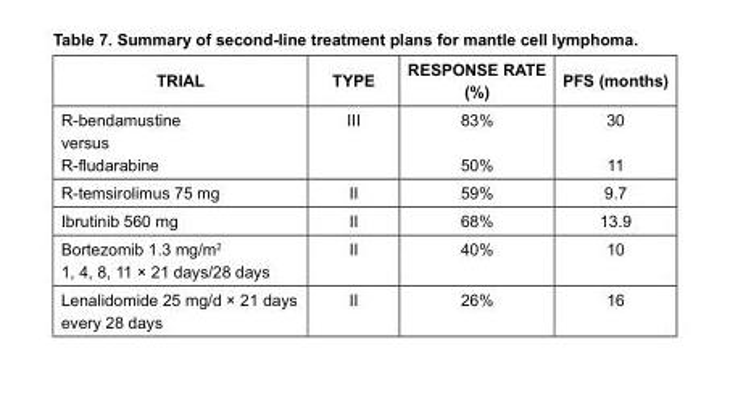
<table><thead><tr><td>TRIAL</td><td>TYPE</td><td>RESPONSE RATE (%)</td><td>PFS (months)</td></tr></thead><tbody><tr><td>R-bendamustine versus R-fludarabine</td><td>III</td><td>83% 50%</td><td>30 11</td></tr><tr><td>R-temsirolimus 75 mg</td><td>II</td><td>59%</td><td>9.7</td></tr><tr><td>Ibrutinib 560 mg</td><td>II</td><td>68%</td><td>13.9</td></tr><tr><td>Bortezomib 1.3 mg/m<sup>2</sup> 1, 4, 8, 11 × 21 days/28 days</td><td>II</td><td>40%</td><td>10</td></tr><tr><td>Lenalidomide 25 mg/d × 21 days every 28 days</td><td>II</td><td>26%</td><td>16</td></tr></tbody></table>